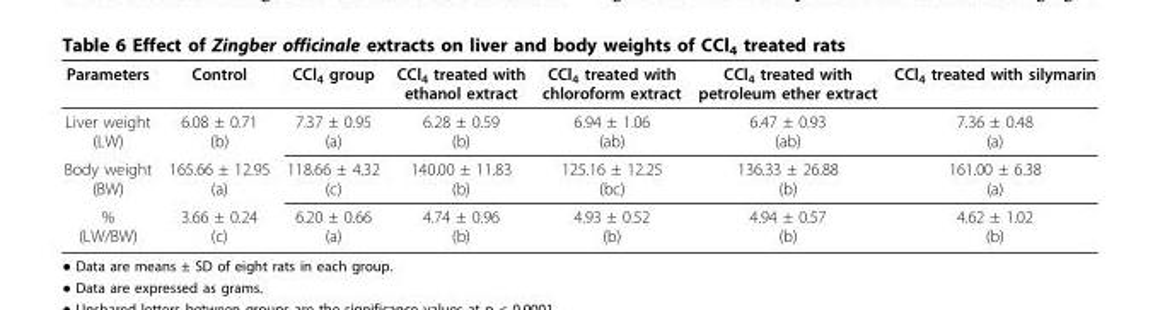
<table><thead><tr><td>Parameters</td><td>Control</td><td>CCl<sub>4</sub> group</td><td>CCl<sub>4</sub> treated with ethanol extract</td><td>CCl<sub>4</sub> treated with chloroform extract</td><td>CCl<sub>4</sub> treated with petroleum ether extract</td><td>CCl<sub>4</sub> treated with silymarin</td></tr></thead><tbody><tr><td>Liver weight (LW)</td><td>6.08 ± 0.71 (b)</td><td>7.37 ± 0.95 (a)</td><td>6.28 ± 0.59 (b)</td><td>6.94 ± 1.06 (ab)</td><td>6.47 ± 0.93 (ab)</td><td>7.36 ± 0.48 (a)</td></tr><tr><td>Body weight (BW)</td><td>165.66 ± 12.95 (a)</td><td>118.66 ± 4.32 (c)</td><td>140.00 ± 11.83 (b)</td><td>125.16 ± 12.25 (bc)</td><td>136.33 ± 26.88 (b)</td><td>161.00 ± 6.38 (a)</td></tr><tr><td>% (LW/BW)</td><td>3.66 ± 0.24 (c)</td><td>6.20 ± 0.66 (a)</td><td>4.74 ± 0.96 (b)</td><td>4.93 ± 0.52 (b)</td><td>4.94 ± 0.57 (b)</td><td>4.62 ± 1.02 (b)</td></tr></tbody></table>